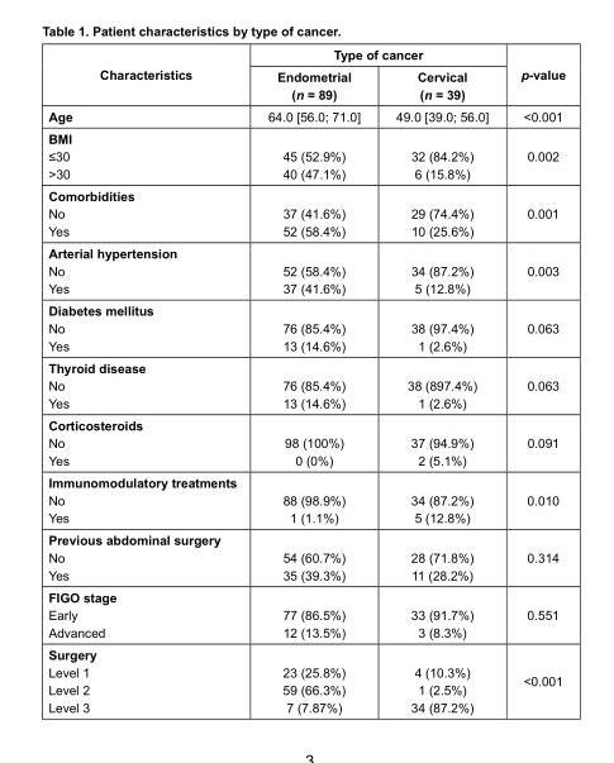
<table><thead><tr><td rowspan="2">Characteristics</td><td colspan="2">Type of cancer</td><td rowspan="2">p-value</td></tr><tr><td>Endometrial (n = 89)</td><td>Cervical (n = 39)</td></tr></thead><tbody><tr><td>Age</td><td>64.0 [56.0; 71.0]</td><td>49.0 [39.0; 56.0]</td><td>&lt;0.001</td></tr><tr><td>BMI ≤30 &gt;30</td><td>45 (52.9%) 40 (47.1%)</td><td>32 (84.2%) 6 (15.8%)</td><td>0.002</td></tr><tr><td>Comorbidities No Yes</td><td>37 (41.6%) 52 (58.4%)</td><td>29 (74.4%) 10 (25.6%)</td><td>0.001</td></tr><tr><td>Arterial hypertension No Yes</td><td>52 (58.4%) 37 (41.6%)</td><td>34 (87.2%) 5 (12.8%)</td><td>0.003</td></tr><tr><td>Diabetes mellitus No Yes</td><td>76 (85.4%) 13 (14.6%)</td><td>38 (97.4%) 1 (2.6%)</td><td>0.063</td></tr><tr><td>Thyroid disease No Yes</td><td>76 (85.4%) 13 (14.6%)</td><td>38 (897.4%) 1 (2.6%)</td><td>0.063</td></tr><tr><td>Corticosteroids No Yes</td><td>98 (100%) 0 (0%)</td><td>37 (94.9%) 2 (5.1%)</td><td>0.091</td></tr><tr><td>Immunomodulatory treatments No Yes</td><td>88 (98.9%) 1 (1.1%)</td><td>34 (87.2%) 5 (12.8%)</td><td>0.010</td></tr><tr><td>Previous abdominal surgery No Yes</td><td>54 (60.7%) 35 (39.3%)</td><td>28 (71.8%) 11 (28.2%)</td><td>0.314</td></tr><tr><td>FIGO stage Early Advanced</td><td>77 (86.5%) 12 (13.5%)</td><td>33 (91.7%) 3 (8.3%)</td><td>0.551</td></tr><tr><td>Surgery Level 1 Level 2 Level 3</td><td>23 (25.8%) 59 (66.3%) 7 (7.87%)</td><td>4 (10.3%) 1 (2.5%) 34 (87.2%)</td><td>&lt;0.001</td></tr></tbody></table>